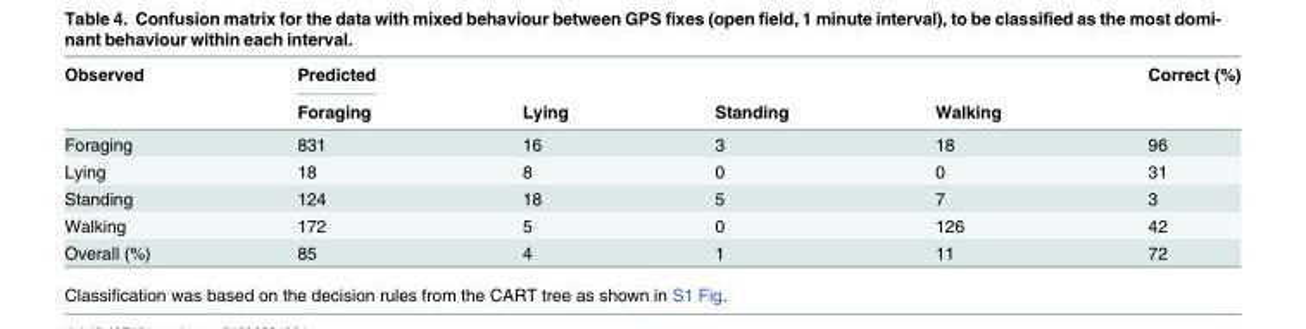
<table><thead><tr><td rowspan="2">Observed</td><td rowspan="2">Predicted Foraging</td><td rowspan="2">Lying</td><td rowspan="2">Standing</td><td rowspan="2">Walking</td><td rowspan="2">Correct (%)</td></tr><tr></tr></thead><tbody><tr><td>Foraging</td><td>831</td><td>16</td><td>3</td><td>18</td><td>96</td></tr><tr><td>Lying</td><td>18</td><td>8</td><td>0</td><td>0</td><td>31</td></tr><tr><td>Standing</td><td>124</td><td>18</td><td>5</td><td>7</td><td>3</td></tr><tr><td>Walking</td><td>172</td><td>5</td><td>0</td><td>126</td><td>42</td></tr><tr><td>Overall (%)</td><td>85</td><td>4</td><td>1</td><td>11</td><td>72</td></tr></tbody></table>